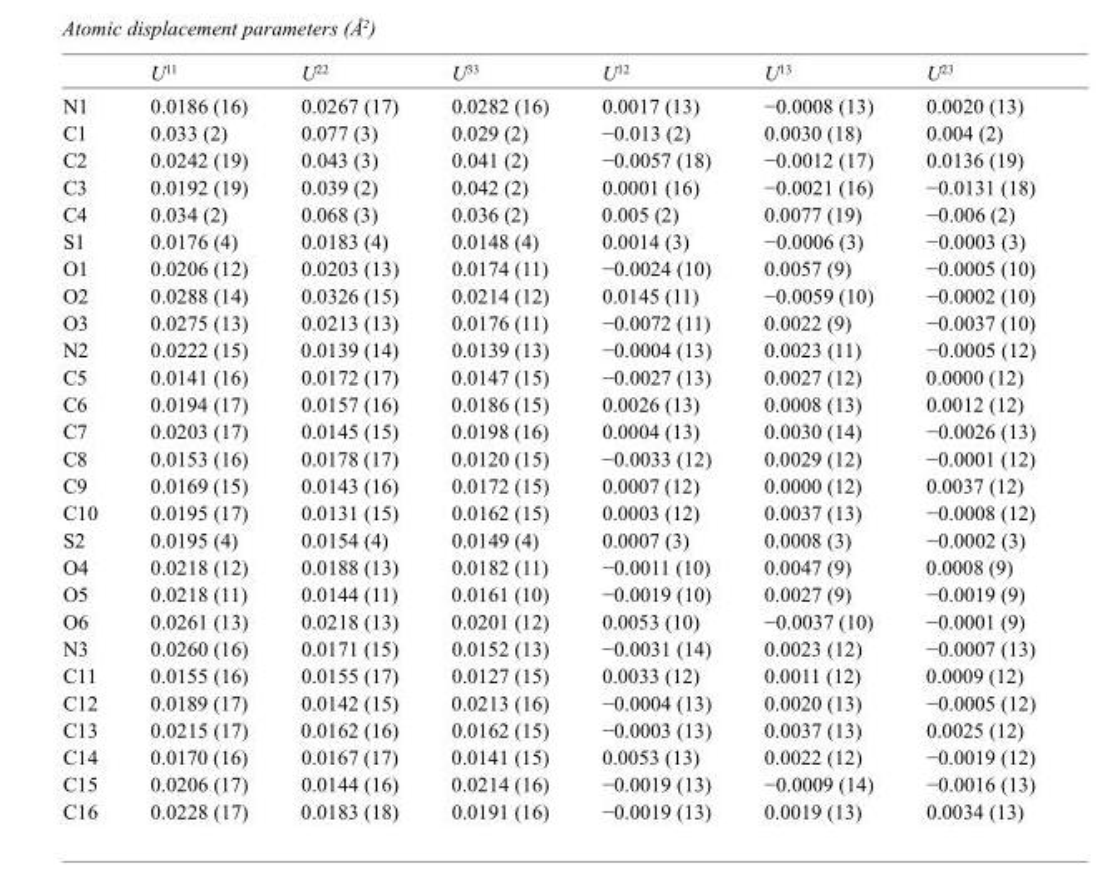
<table><thead><tr><td></td><td>U<sup>11</sup></td><td>U<sup>22</sup></td><td>U<sup>33</sup></td><td>U<sup>12</sup></td><td>U<sup>13</sup></td><td>U<sup>23</sup></td></tr></thead><tbody><tr><td>N1</td><td>0.0186 (16)</td><td>0.0267 (17)</td><td>0.0282 (16)</td><td>0.0017 (13)</td><td>−0.0008 (13)</td><td>0.0020 (13)</td></tr><tr><td>C1</td><td>0.033 (2)</td><td>0.077 (3)</td><td>0.029 (2)</td><td>−0.013 (2)</td><td>0.0030 (18)</td><td>0.004 (2)</td></tr><tr><td>C2</td><td>0.0242 (19)</td><td>0.043 (3)</td><td>0.041 (2)</td><td>−0.0057 (18)</td><td>−0.0012 (17)</td><td>0.0136 (19)</td></tr><tr><td>C3</td><td>0.0192 (19)</td><td>0.039 (2)</td><td>0.042 (2)</td><td>0.0001 (16)</td><td>−0.0021 (16)</td><td>−0.0131 (18)</td></tr><tr><td>C4</td><td>0.034 (2)</td><td>0.068 (3)</td><td>0.036 (2)</td><td>0.005 (2)</td><td>0.0077 (19)</td><td>−0.006 (2)</td></tr><tr><td>S1</td><td>0.0176 (4)</td><td>0.0183 (4)</td><td>0.0148 (4)</td><td>0.0014 (3)</td><td>−0.0006 (3)</td><td>−0.0003 (3)</td></tr><tr><td>O1</td><td>0.0206 (12)</td><td>0.0203 (13)</td><td>0.0174 (11)</td><td>−0.0024 (10)</td><td>0.0057 (9)</td><td>−0.0005 (10)</td></tr><tr><td>O2</td><td>0.0288 (14)</td><td>0.0326 (15)</td><td>0.0214 (12)</td><td>0.0145 (11)</td><td>−0.0059 (10)</td><td>−0.0002 (10)</td></tr><tr><td>O3</td><td>0.0275 (13)</td><td>0.0213 (13)</td><td>0.0176 (11)</td><td>−0.0072 (11)</td><td>0.0022 (9)</td><td>−0.0037 (10)</td></tr><tr><td>N2</td><td>0.0222 (15)</td><td>0.0139 (14)</td><td>0.0139 (13)</td><td>−0.0004 (13)</td><td>0.0023 (11)</td><td>−0.0005 (12)</td></tr><tr><td>C5</td><td>0.0141 (16)</td><td>0.0172 (17)</td><td>0.0147 (15)</td><td>−0.0027 (13)</td><td>0.0027 (12)</td><td>0.0000 (12)</td></tr><tr><td>C6</td><td>0.0194 (17)</td><td>0.0157 (16)</td><td>0.0186 (15)</td><td>0.0026 (13)</td><td>0.0008 (13)</td><td>0.0012 (12)</td></tr><tr><td>C7</td><td>0.0203 (17)</td><td>0.0145 (15)</td><td>0.0198 (16)</td><td>0.0004 (13)</td><td>0.0030 (14)</td><td>−0.0026 (13)</td></tr><tr><td>C8</td><td>0.0153 (16)</td><td>0.0178 (17)</td><td>0.0120 (15)</td><td>−0.0033 (12)</td><td>0.0029 (12)</td><td>−0.0001 (12)</td></tr><tr><td>C9</td><td>0.0169 (15)</td><td>0.0143 (16)</td><td>0.0172 (15)</td><td>0.0007 (12)</td><td>0.0000 (12)</td><td>0.0037 (12)</td></tr><tr><td>C10</td><td>0.0195 (17)</td><td>0.0131 (15)</td><td>0.0162 (15)</td><td>0.0003 (12)</td><td>0.0037 (13)</td><td>−0.0008 (12)</td></tr><tr><td>S2</td><td>0.0195 (4)</td><td>0.0154 (4)</td><td>0.0149 (4)</td><td>0.0007 (3)</td><td>0.0008 (3)</td><td>−0.0002 (3)</td></tr><tr><td>O4</td><td>0.0218 (12)</td><td>0.0188 (13)</td><td>0.0182 (11)</td><td>−0.0011 (10)</td><td>0.0047 (9)</td><td>0.0008 (9)</td></tr><tr><td>O5</td><td>0.0218 (11)</td><td>0.0144 (11)</td><td>0.0161 (10)</td><td>−0.0019 (10)</td><td>0.0027 (9)</td><td>−0.0019 (9)</td></tr><tr><td>O6</td><td>0.0261 (13)</td><td>0.0218 (13)</td><td>0.0201 (12)</td><td>0.0053 (10)</td><td>−0.0037 (10)</td><td>−0.0001 (9)</td></tr><tr><td>N3</td><td>0.0260 (16)</td><td>0.0171 (15)</td><td>0.0152 (13)</td><td>−0.0031 (14)</td><td>0.0023 (12)</td><td>−0.0007 (13)</td></tr><tr><td>C11</td><td>0.0155 (16)</td><td>0.0155 (17)</td><td>0.0127 (15)</td><td>0.0033 (12)</td><td>0.0011 (12)</td><td>0.0009 (12)</td></tr><tr><td>C12</td><td>0.0189 (17)</td><td>0.0142 (15)</td><td>0.0213 (16)</td><td>−0.0004 (13)</td><td>0.0020 (13)</td><td>−0.0005 (12)</td></tr><tr><td>C13</td><td>0.0215 (17)</td><td>0.0162 (16)</td><td>0.0162 (15)</td><td>−0.0003 (13)</td><td>0.0037 (13)</td><td>0.0025 (12)</td></tr><tr><td>C14</td><td>0.0170 (16)</td><td>0.0167 (17)</td><td>0.0141 (15)</td><td>0.0053 (13)</td><td>0.0022 (12)</td><td>−0.0019 (12)</td></tr><tr><td>C15</td><td>0.0206 (17)</td><td>0.0144 (16)</td><td>0.0214 (16)</td><td>−0.0019 (13)</td><td>−0.0009 (14)</td><td>−0.0016 (13)</td></tr><tr><td>C16</td><td>0.0228 (17)</td><td>0.0183 (18)</td><td>0.0191 (16)</td><td>−0.0019 (13)</td><td>0.0019 (13)</td><td>0.0034 (13)</td></tr></tbody></table>